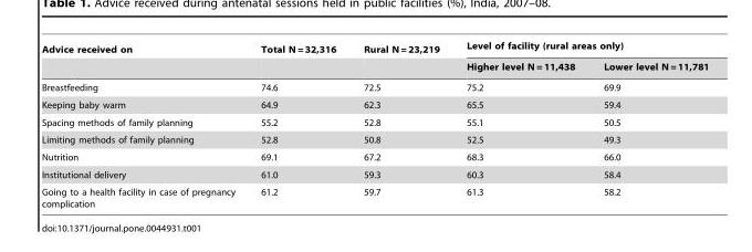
<table><thead><tr><td rowspan="2">Advice received on</td><td rowspan="2">Total N = 32,316</td><td rowspan="2">Rural N = 23,219</td><td colspan="2">Level of facility (rural areas only)</td></tr><tr><td>Higher level N = 11,438</td><td>Lower level N = 11,781</td></tr></thead><tbody><tr><td>Breastfeeding</td><td>74.6</td><td>72.5</td><td>75.2</td><td>69.9</td></tr><tr><td>Keeping baby warm</td><td>64.9</td><td>62.3</td><td>65.5</td><td>59.4</td></tr><tr><td>Spacing methods of family planning</td><td>55.2</td><td>52.8</td><td>55.1</td><td>50.5</td></tr><tr><td>Limiting methods of family planning</td><td>52.8</td><td>50.8</td><td>52.5</td><td>49.3</td></tr><tr><td>Nutrition</td><td>69.1</td><td>67.2</td><td>68.3</td><td>66.0</td></tr><tr><td>Institutional delivery</td><td>61.0</td><td>59.3</td><td>60.3</td><td>58.4</td></tr><tr><td>Going to a health facility in case of pregnancy complication</td><td>61.2</td><td>59.7</td><td>61.3</td><td>58.2</td></tr></tbody></table>